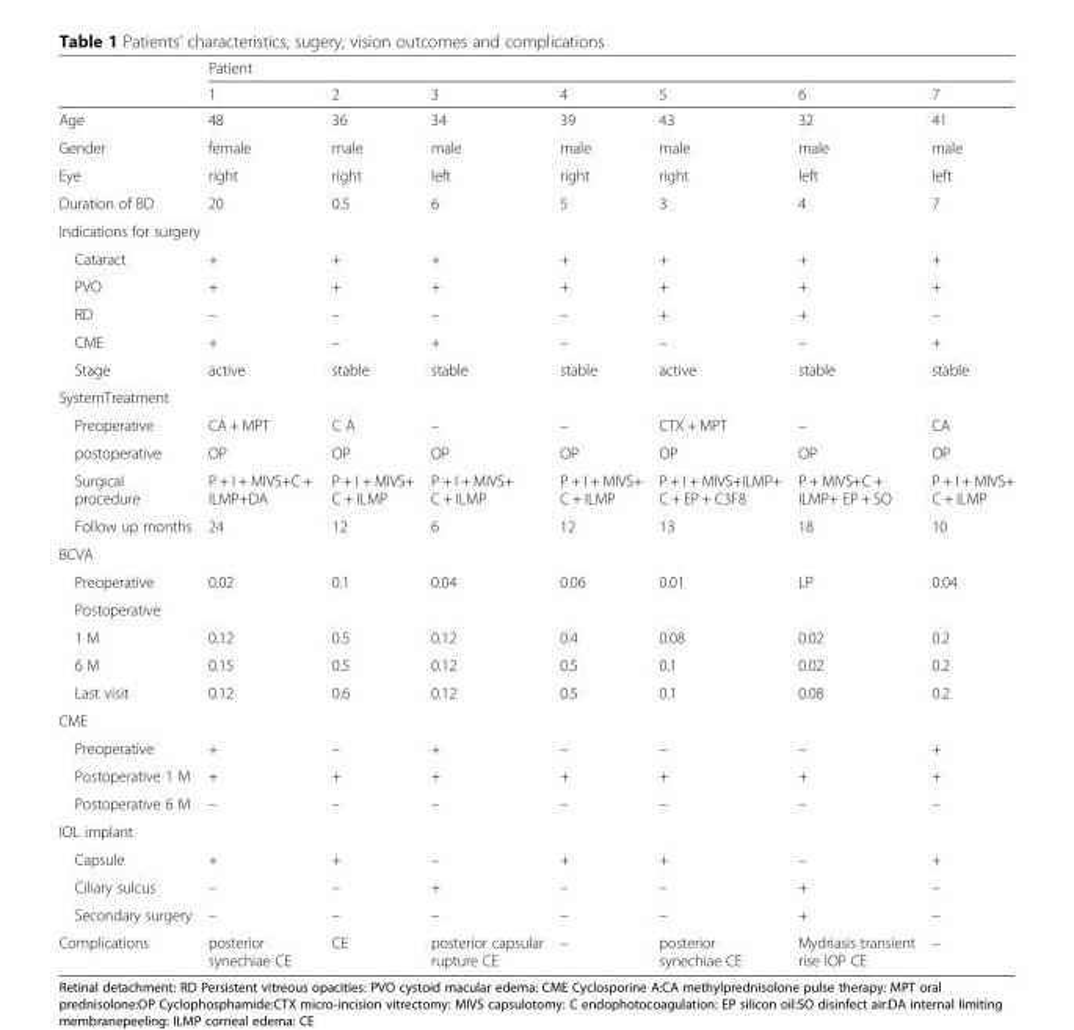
<table><thead><tr><td rowspan="2"></td><td colspan="7">Patient</td></tr><tr><td>1</td><td>2</td><td>3</td><td>4</td><td>5</td><td>6</td><td>7</td></tr></thead><tbody><tr><td>Age</td><td>48</td><td>36</td><td>34</td><td>39</td><td>43</td><td>32</td><td>41</td></tr><tr><td>Gender</td><td>female</td><td>male</td><td>male</td><td>male</td><td>male</td><td>male</td><td>male</td></tr><tr><td>Eye</td><td>right</td><td>right</td><td>left</td><td>right</td><td>right</td><td>left</td><td>left</td></tr><tr><td>Duration of BD</td><td>20</td><td>0.5</td><td>6</td><td>5</td><td>3</td><td>4</td><td>7</td></tr><tr><td colspan="8">Indications for surgery</td></tr><tr><td>Cataract</td><td>+</td><td>+</td><td>+</td><td>+</td><td>+</td><td>+</td><td>+</td></tr><tr><td>PVO</td><td>+</td><td>+</td><td>+</td><td>+</td><td>+</td><td>+</td><td>+</td></tr><tr><td>RD</td><td>–</td><td>–</td><td>–</td><td>–</td><td>+</td><td>+</td><td>–</td></tr><tr><td>CME</td><td>+</td><td>–</td><td>+</td><td>–</td><td>–</td><td>–</td><td>+</td></tr><tr><td>Stage</td><td>active</td><td>stable</td><td>stable</td><td>stable</td><td>active</td><td>stable</td><td>stable</td></tr><tr><td colspan="8">SystemTreatment</td></tr><tr><td>Preoperative</td><td>CA + MPT</td><td>C A</td><td>–</td><td>–</td><td>CTX + MPT</td><td>–</td><td>CA</td></tr><tr><td>postoperative</td><td>OP</td><td>OP</td><td>OP</td><td>OP</td><td>OP</td><td>OP</td><td>OP</td></tr><tr><td>Surgical procedure</td><td>P + I + MIVS+C + ILMP+DA</td><td>P + I + MIVS+ C + ILMP</td><td>P + I + MIVS+ C + ILMP</td><td>P + I + MIVS+ C + ILMP</td><td>P + I + MIVS+ILMP+ C + EP + C3F8</td><td>P + MIVS+C + ILMP+ EP + SO</td><td>P + I + MIVS+ C + ILMP</td></tr><tr><td>Follow up months</td><td>24</td><td>12</td><td>6</td><td>12</td><td>13</td><td>18</td><td>10</td></tr><tr><td colspan="8">BCVA</td></tr><tr><td>Preoperative</td><td>0.02</td><td>0.1</td><td>0.04</td><td>0.06</td><td>0.01</td><td>LP</td><td>0.04</td></tr><tr><td colspan="8">Postoperative</td></tr><tr><td>1 M</td><td>0.12</td><td>0.5</td><td>0.12</td><td>0.4</td><td>0.08</td><td>0.02</td><td>0.2</td></tr><tr><td>6 M</td><td>0.15</td><td>0.5</td><td>0.12</td><td>0.5</td><td>0.1</td><td>0.02</td><td>0.2</td></tr><tr><td>Last visit</td><td>0.12</td><td>0.6</td><td>0.12</td><td>0.5</td><td>0.1</td><td>0.08</td><td>0.2</td></tr><tr><td colspan="8">CME</td></tr><tr><td>Preoperative</td><td>+</td><td>–</td><td>+</td><td>–</td><td>–</td><td>–</td><td>+</td></tr><tr><td>Postoperative 1 M</td><td>+</td><td>+</td><td>+</td><td>+</td><td>+</td><td>+</td><td>+</td></tr><tr><td>Postoperative 6 M</td><td>–</td><td>–</td><td>–</td><td>–</td><td>–</td><td>–</td><td>–</td></tr><tr><td colspan="8">IOL implant</td></tr><tr><td>Capsule</td><td>+</td><td>+</td><td>–</td><td>+</td><td>+</td><td>–</td><td>+</td></tr><tr><td>Ciliary sulcus</td><td>–</td><td>–</td><td>+</td><td>–</td><td>–</td><td>+</td><td>–</td></tr><tr><td>Secondary surgery</td><td>–</td><td>–</td><td>–</td><td>–</td><td>–</td><td>+</td><td>–</td></tr><tr><td>Complications</td><td>posterior synechiae CE</td><td>CE</td><td>posterior capsular rupture CE</td><td>–</td><td>posterior synechiae CE</td><td>Mydriasis transient rise IOP CE</td><td>–</td></tr></tbody></table>